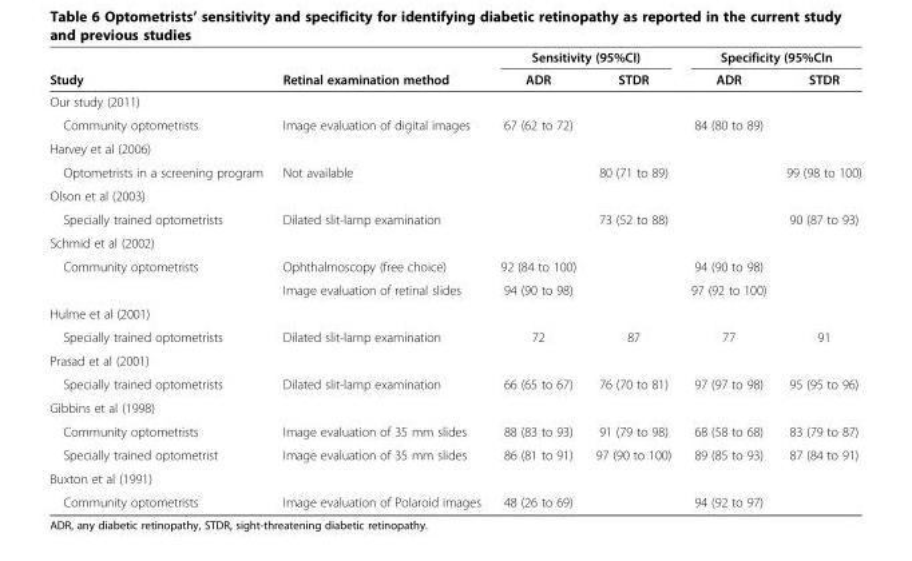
<table><thead><tr><td rowspan="2">Study</td><td rowspan="2">Retinal examination method</td><td colspan="2">Sensitivity (95%CI)</td><td colspan="2">Specificity (95%CIn</td></tr><tr><td>ADR</td><td>STDR</td><td>ADR</td><td>STDR</td></tr></thead><tbody><tr><td colspan="6">Our study (2011)</td></tr><tr><td>Community optometrists</td><td>Image evaluation of digital images</td><td>67 (62 to 72)</td><td></td><td>84 (80 to 89)</td><td></td></tr><tr><td colspan="6">Harvey et al (2006)</td></tr><tr><td>Optometrists in a screening program</td><td>Not available</td><td></td><td>80 (71 to 89)</td><td></td><td>99 (98 to 100)</td></tr><tr><td colspan="6">Olson et al (2003)</td></tr><tr><td>Specially trained optometrists</td><td>Dilated slit-lamp examination</td><td></td><td>73 (52 to 88)</td><td></td><td>90 (87 to 93)</td></tr><tr><td colspan="6">Schmid et al (2002)</td></tr><tr><td rowspan="2">Community optometrists</td><td>Ophthalmoscopy (free choice)</td><td>92 (84 to 100)</td><td></td><td>94 (90 to 98)</td><td></td></tr><tr><td>Image evaluation of retinal slides</td><td>94 (90 to 98)</td><td></td><td>97 (92 to 100)</td><td></td></tr><tr><td colspan="6">Hulme et al (2001)</td></tr><tr><td>Specially trained optometrists</td><td>Dilated slit-lamp examination</td><td>72</td><td>87</td><td>77</td><td>91</td></tr><tr><td colspan="6">Prasad et al (2001)</td></tr><tr><td>Specially trained optometrists</td><td>Dilated slit-lamp examination</td><td>66 (65 to 67)</td><td>76 (70 to 81)</td><td>97 (97 to 98)</td><td>95 (95 to 96)</td></tr><tr><td colspan="6">Gibbins et al (1998)</td></tr><tr><td>Community optometrists</td><td>Image evaluation of 35 mm slides</td><td>88 (83 to 93)</td><td>91 (79 to 98)</td><td>68 (58 to 68)</td><td>83 (79 to 87)</td></tr><tr><td>Specially trained optometrist</td><td>Image evaluation of 35 mm slides</td><td>86 (81 to 91)</td><td>97 (90 to 100)</td><td>89 (85 to 93)</td><td>87 (84 to 91)</td></tr><tr><td colspan="6">Buxton et al (1991)</td></tr><tr><td>Community optometrists</td><td>Image evaluation of Polaroid images</td><td>48 (26 to 69)</td><td></td><td>94 (92 to 97)</td><td></td></tr></tbody></table>